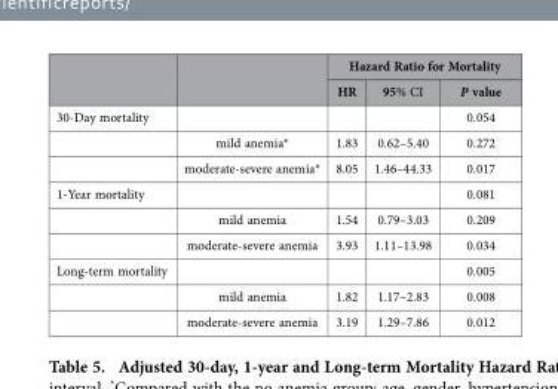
<table><thead><tr><td rowspan="2"></td><td rowspan="2"></td><td colspan="3">Hazard Ratio for Mortality</td></tr><tr><td>HR</td><td>95% CI</td><td>P value</td></tr></thead><tbody><tr><td rowspan="3">30-Day mortality</td><td></td><td></td><td></td><td>0.054</td></tr><tr><td>mild anemia*</td><td>1.83</td><td>0.62–5.40</td><td>0.272</td></tr><tr><td>moderate-severe anemia*</td><td>8.05</td><td>1.46–44.33</td><td>0.017</td></tr><tr><td rowspan="3">1-Year mortality</td><td></td><td></td><td></td><td>0.081</td></tr><tr><td>mild anemia</td><td>1.54</td><td>0.79–3.03</td><td>0.209</td></tr><tr><td>moderate-severe anemia</td><td>3.93</td><td>1.11–13.98</td><td>0.034</td></tr><tr><td rowspan="3">Long-term mortality</td><td></td><td></td><td></td><td>0.005</td></tr><tr><td>mild anemia</td><td>1.82</td><td>1.17–2.83</td><td>0.008</td></tr><tr><td>moderate-severe anemia</td><td>3.19</td><td>1.29–7.86</td><td>0.012</td></tr></tbody></table>